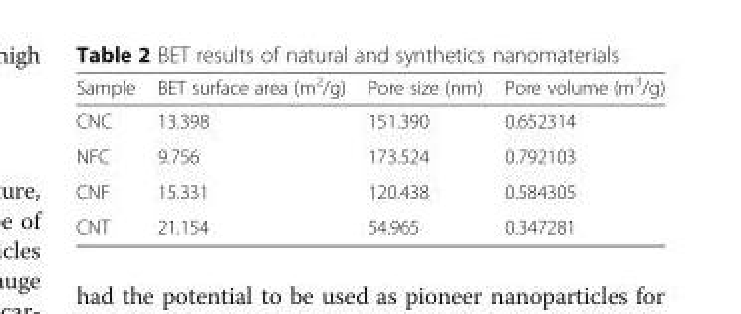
<table><thead><tr><td>Sample</td><td>BET surface area (m<sup>2</sup>/g)</td><td>Pore size (nm)</td><td>Pore volume (m<sup>3</sup>/g)</td></tr></thead><tbody><tr><td>CNC</td><td>13.398</td><td>151.390</td><td>0.652314</td></tr><tr><td>NFC</td><td>9.756</td><td>173.524</td><td>0.792103</td></tr><tr><td>CNF</td><td>15.331</td><td>120.438</td><td>0.584305</td></tr><tr><td>CNT</td><td>21.154</td><td>54.965</td><td>0.347281</td></tr></tbody></table>